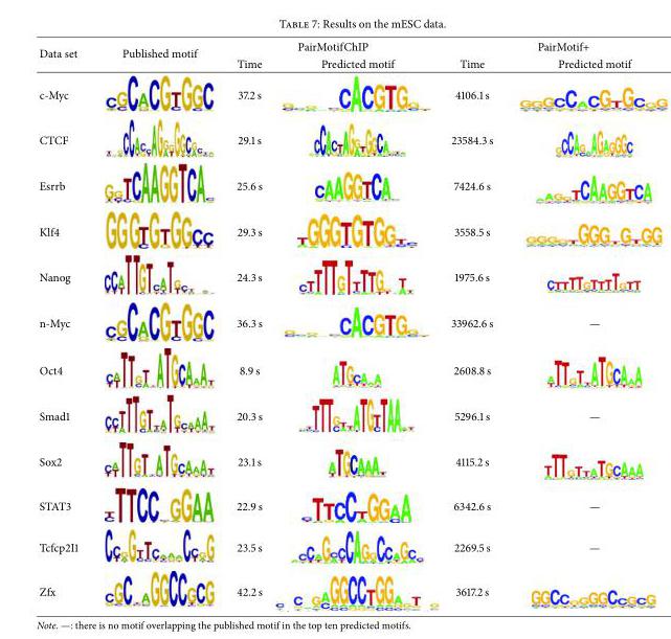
<table><thead><tr><td rowspan="2">Data set</td><td rowspan="2">Published motif</td><td colspan="2">PairMotifChIP</td><td colspan="2">PairMotif+</td></tr><tr><td>Time</td><td>Predicted motif</td><td>Time</td><td>Predicted motif</td></tr></thead><tbody><tr><td>c-Myc</td><td></td><td>37.2 s</td><td></td><td>4106.1 s</td><td></td></tr><tr><td>CTCF</td><td></td><td>29.1 s</td><td></td><td>23584.3 s</td><td></td></tr><tr><td>Esrrb</td><td></td><td>25.6 s</td><td></td><td>7424.6 s</td><td></td></tr><tr><td>Klf4</td><td></td><td>29.3 s</td><td></td><td>3558.5 s</td><td></td></tr><tr><td>Nanog</td><td></td><td>24.3 s</td><td></td><td>1975.6 s</td><td></td></tr><tr><td>n-Myc</td><td></td><td>36.3 s</td><td></td><td>33962.6 s</td><td>—</td></tr><tr><td>Oct4</td><td></td><td>8.9 s</td><td></td><td>2608.8 s</td><td></td></tr><tr><td>Smad1</td><td></td><td>20.3 s</td><td></td><td>5296.1 s</td><td>—</td></tr><tr><td>Sox2</td><td></td><td>23.1 s</td><td></td><td>4115.2 s</td><td></td></tr><tr><td>STAT3</td><td></td><td>22.9 s</td><td></td><td>6342.6 s</td><td>—</td></tr><tr><td>Tcfcp2I1</td><td></td><td>23.5 s</td><td></td><td>2269.5 s</td><td>—</td></tr><tr><td>Zfx</td><td></td><td>42.2 s</td><td></td><td>3617.2 s</td><td></td></tr></tbody></table>